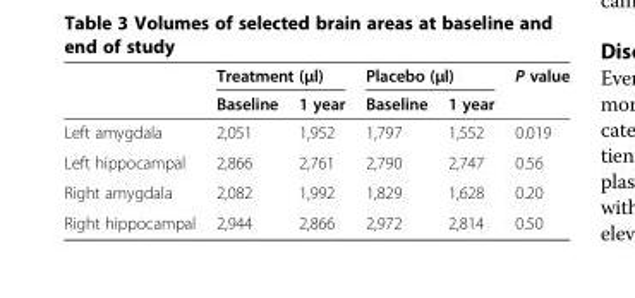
<table><thead><tr><td rowspan="2"></td><td colspan="2">Treatment (μl)</td><td colspan="2">Placebo (μl)</td><td rowspan="2">P value</td></tr><tr><td>Baseline</td><td>1 year</td><td>Baseline</td><td>1 year</td></tr></thead><tbody><tr><td>Left amygdala</td><td>2,051</td><td>1,952</td><td>1,797</td><td>1,552</td><td>0.019</td></tr><tr><td>Left hippocampal</td><td>2,866</td><td>2,761</td><td>2,790</td><td>2,747</td><td>0.56</td></tr><tr><td>Right amygdala</td><td>2,082</td><td>1,992</td><td>1,829</td><td>1,628</td><td>0.20</td></tr><tr><td>Right hippocampal</td><td>2,944</td><td>2,866</td><td>2,972</td><td>2,814</td><td>0.50</td></tr></tbody></table>